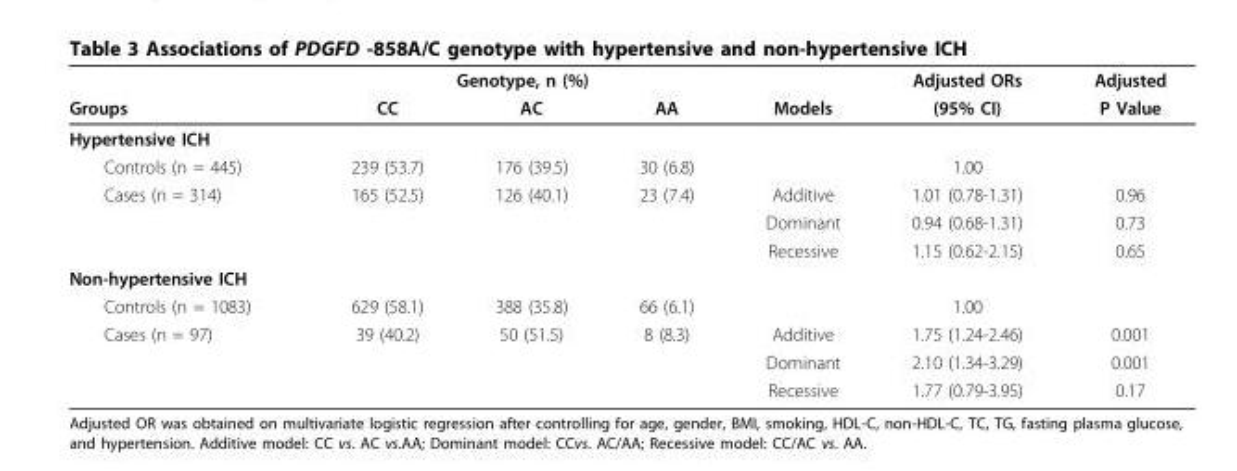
<table><thead><tr><td rowspan="2">Groups</td><td colspan="3">Genotype, n (%)</td><td rowspan="2">Models</td><td rowspan="2">Adjusted ORs (95% CI)</td><td rowspan="2">Adjusted P Value</td></tr><tr><td>CC</td><td>AC</td><td>AA</td></tr></thead><tbody><tr><td colspan="7">Hypertensive ICH</td></tr><tr><td>Controls (n = 445)</td><td>239 (53.7)</td><td>176 (39.5)</td><td>30 (6.8)</td><td></td><td>1.00</td><td></td></tr><tr><td rowspan="3">Cases (n = 314)</td><td>165 (52.5)</td><td>126 (40.1)</td><td>23 (7.4)</td><td>Additive</td><td>1.01 (0.78-1.31)</td><td>0.96</td></tr><tr><td></td><td></td><td></td><td>Dominant</td><td>0.94 (0.68-1.31)</td><td>0.73</td></tr><tr><td></td><td></td><td></td><td>Recessive</td><td>1.15 (0.62-2.15)</td><td>0.65</td></tr><tr><td colspan="7">Non-hypertensive ICH</td></tr><tr><td>Controls (n = 1083)</td><td>629 (58.1)</td><td>388 (35.8)</td><td>66 (6.1)</td><td></td><td>1.00</td><td></td></tr><tr><td rowspan="3">Cases (n = 97)</td><td>39 (40.2)</td><td>50 (51.5)</td><td>8 (8.3)</td><td>Additive</td><td>1.75 (1.24-2.46)</td><td>0.001</td></tr><tr><td></td><td></td><td></td><td>Dominant</td><td>2.10 (1.34-3.29)</td><td>0.001</td></tr><tr><td></td><td></td><td></td><td>Recessive</td><td>1.77 (0.79-3.95)</td><td>0.17</td></tr></tbody></table>